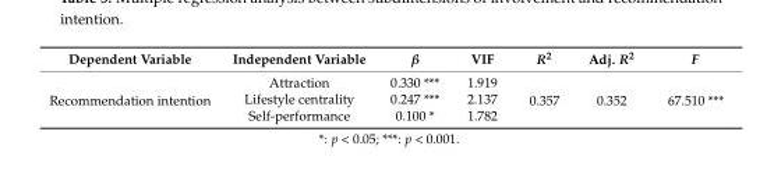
<table><thead><tr><td>Dependent Variable</td><td>Independent Variable</td><td>β</td><td>VIF</td><td>R<sup>2</sup></td><td>Adj. R<sup>2</sup></td><td>F</td></tr></thead><tbody><tr><td rowspan="3">Recommendation intention</td><td>Attraction</td><td>0.330 ***</td><td>1.919</td><td rowspan="3">0.357</td><td rowspan="3">0.352</td><td rowspan="3">67.510 ***</td></tr><tr><td>Lifestyle centrality</td><td>0.247 ***</td><td>2.137</td></tr><tr><td>Self-performance</td><td>0.100 *</td><td>1.782</td></tr></tbody></table>